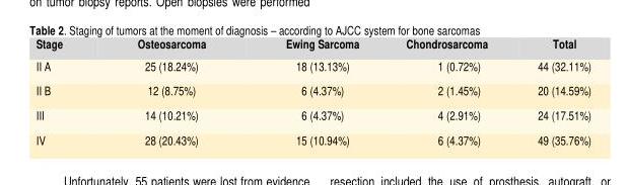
<table><thead><tr><td>Stage</td><td>Osteosarcoma</td><td>Ewing Sarcoma</td><td>Chondrosarcoma</td><td>Total</td></tr></thead><tbody><tr><td>II A</td><td>25 (18.24%)</td><td>18 (13.13%)</td><td>1 (0.72%)</td><td>44 (32.11%)</td></tr><tr><td>II B</td><td>12 (8.75%)</td><td>6 (4.37%)</td><td>2 (1.45%)</td><td>20 (14.59%)</td></tr><tr><td>III</td><td>14 (10.21%)</td><td>6 (4.37%)</td><td>4 (2.91%)</td><td>24 (17.51%)</td></tr><tr><td>IV</td><td>28 (20.43%)</td><td>15 (10.94%)</td><td>6 (4.37%)</td><td>49 (35.76%)</td></tr></tbody></table>